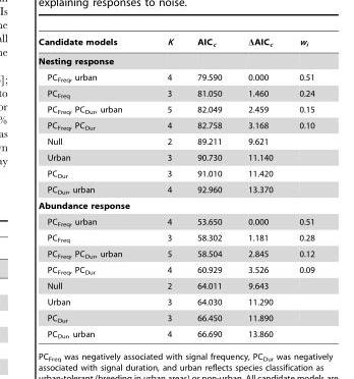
<table><thead><tr><td>Candidate models</td><td>K</td><td>AIC<sub>c</sub></td><td>ΔAIC<sub>c</sub></td><td>w<sub>i</sub></td></tr></thead><tbody><tr><td colspan="5">Nesting response</td></tr><tr><td>PC<sub>Freq</sub>, urban</td><td>4</td><td>79.590</td><td>0.000</td><td>0.51</td></tr><tr><td>PC<sub>Freq</sub></td><td>3</td><td>81.050</td><td>1.460</td><td>0.24</td></tr><tr><td>PC<sub>Freq</sub>, PC<sub>Dur</sub>, urban</td><td>5</td><td>82.049</td><td>2.459</td><td>0.15</td></tr><tr><td>PC<sub>Freq</sub>, PC<sub>Dur</sub></td><td>4</td><td>82.758</td><td>3.168</td><td>0.10</td></tr><tr><td>Null</td><td>2</td><td>89.211</td><td>9.621</td><td></td></tr><tr><td>Urban</td><td>3</td><td>90.730</td><td>11.140</td><td></td></tr><tr><td>PC<sub>Dur</sub></td><td>3</td><td>91.010</td><td>11.420</td><td></td></tr><tr><td>PC<sub>Dur</sub>, urban</td><td>4</td><td>92.960</td><td>13.370</td><td></td></tr><tr><td colspan="5">Abundance response</td></tr><tr><td>PC<sub>Freq</sub>, urban</td><td>4</td><td>53.650</td><td>0.000</td><td>0.51</td></tr><tr><td>PC<sub>Freq</sub></td><td>3</td><td>58.302</td><td>1.181</td><td>0.28</td></tr><tr><td>PC<sub>Freq</sub>, PC<sub>Dur</sub>, urban</td><td>5</td><td>58.504</td><td>2.845</td><td>0.12</td></tr><tr><td>PC<sub>Freq</sub>, PC<sub>Dur</sub></td><td>4</td><td>60.929</td><td>3.526</td><td>0.09</td></tr><tr><td>Null</td><td>2</td><td>64.011</td><td>9.643</td><td></td></tr><tr><td>Urban</td><td>3</td><td>64.030</td><td>11.290</td><td></td></tr><tr><td>PC<sub>Dur</sub></td><td>3</td><td>66.450</td><td>11.890</td><td></td></tr><tr><td>PC<sub>Dur</sub>, urban</td><td>4</td><td>66.690</td><td>13.860</td><td></td></tr></tbody></table>